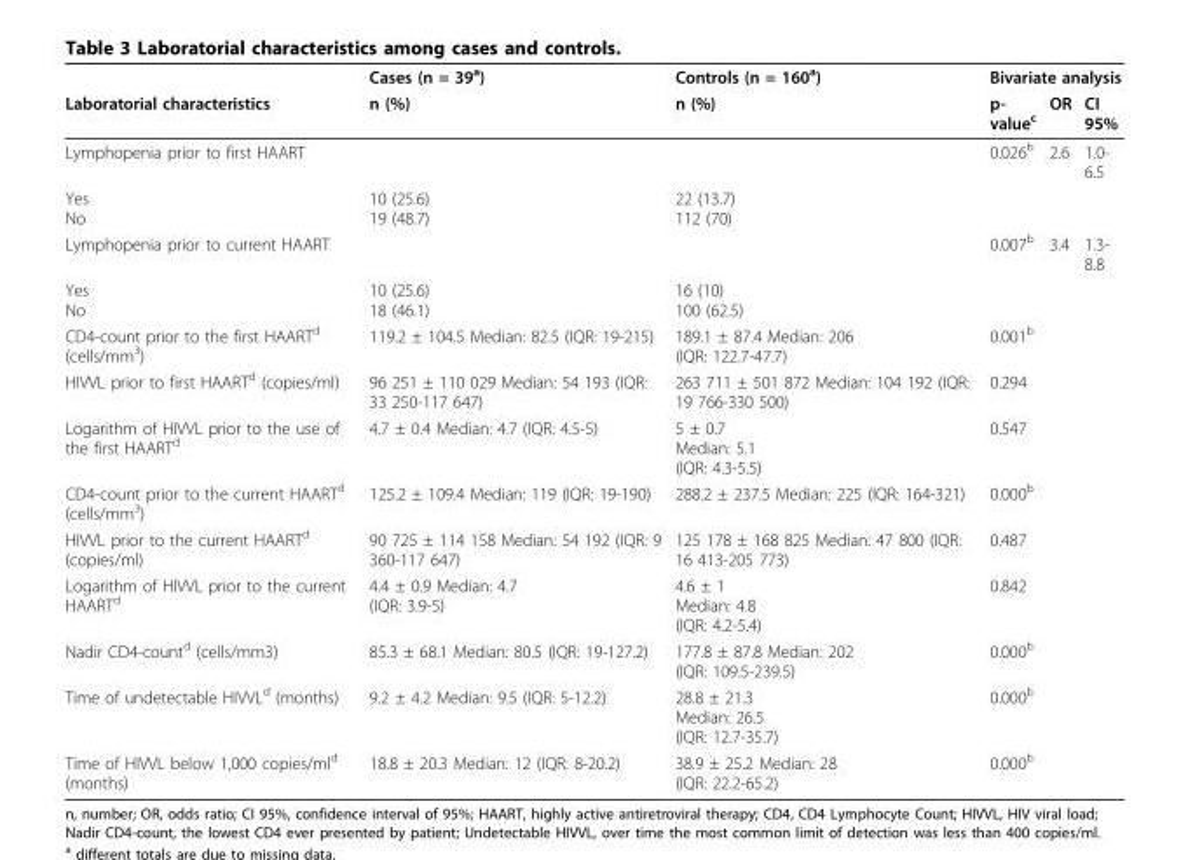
<table><thead><tr><td rowspan="2">Laboratorial characteristics</td><td rowspan="2">Cases (n = 39<sup>a</sup>) n (%)</td><td rowspan="2">Controls (n = 160<sup>a</sup>) n (%)</td><td colspan="3">Bivariate analysis</td></tr><tr><td>p- value<sup>c</sup></td><td>OR</td><td>CI 95%</td></tr></thead><tbody><tr><td>Lymphopenia prior to first HAART</td><td></td><td></td><td>0.026<sup>b</sup></td><td>2.6</td><td>1.0- 6.5</td></tr><tr><td>Yes No</td><td>10 (25.6) 19 (48.7)</td><td>22 (13.7) 112 (70)</td><td></td><td></td><td></td></tr><tr><td>Lymphopenia prior to current HAART</td><td></td><td></td><td>0.007<sup>b</sup></td><td>3.4</td><td>1.3- 8.8</td></tr><tr><td>Yes No</td><td>10 (25.6) 18 (46.1)</td><td>16 (10) 100 (62.5)</td><td></td><td></td><td></td></tr><tr><td>CD4-count prior to the first HAART<sup>d</sup> (cells/mm<sup>3</sup>)</td><td>119.2 ± 104.5 Median: 82.5 (IQR: 19-215)</td><td>189.1 ± 87.4 Median: 206 (IQR: 122.7-47.7)</td><td>0.001<sup>b</sup></td><td></td><td></td></tr><tr><td>HIVVL prior to first HAART<sup>d</sup> (copies/ml)</td><td>96 251 ± 110 029 Median: 54 193 (IQR: 33 250-117 647)</td><td>263 711 ± 501 872 Median: 104 192 (IQR: 19 766-330 500)</td><td>0.294</td><td></td><td></td></tr><tr><td>Logarithm of HIVVL prior to the use of the first HAART<sup>d</sup></td><td>4.7 ± 0.4 Median: 4.7 (IQR: 4.5-5)</td><td>5 ± 0.7 Median: 5.1 (IQR: 4.3-5.5)</td><td>0.547</td><td></td><td></td></tr><tr><td>CD4-count prior to the current HAART<sup>d</sup> (cells/mm<sup>3</sup>)</td><td>125.2 ± 109.4 Median: 119 (IQR: 19-190)</td><td>288.2 ± 237.5 Median: 225 (IQR: 164-321)</td><td>0.000<sup>b</sup></td><td></td><td></td></tr><tr><td>HIVVL prior to the current HAART<sup>d</sup> (copies/ml)</td><td>90 725 ± 114 158 Median: 54 192 (IQR: 9 360-117 647)</td><td>125 178 ± 168 825 Median: 47 800 (IQR: 16 413-205 773)</td><td>0.487</td><td></td><td></td></tr><tr><td>Logarithm of HIVVL prior to the current HAART<sup>d</sup></td><td>4.4 ± 0.9 Median: 4.7 (IQR: 3.9-5)</td><td>4.6 ± 1 Median: 4.8 (IQR: 4.2-5.4)</td><td>0.842</td><td></td><td></td></tr><tr><td>Nadir CD4-count<sup>d</sup> (cells/mm3)</td><td>85.3 ± 68.1 Median: 80.5 (IQR: 19-127.2)</td><td>177.8 ± 87.8 Median: 202 (IQR: 109.5-239.5)</td><td>0.000<sup>b</sup></td><td></td><td></td></tr><tr><td>Time of undetectable HIVVL<sup>d</sup> (months)</td><td>9.2 ± 4.2 Median: 9.5 (IQR: 5-12.2)</td><td>28.8 ± 21.3 Median: 26.5 (IQR: 12.7-35.7)</td><td>0.000<sup>b</sup></td><td></td><td></td></tr><tr><td>Time of HIVVL below 1,000 copies/ml<sup>d</sup> (months)</td><td>18.8 ± 20.3 Median: 12 (IQR: 8-20.2)</td><td>38.9 ± 25.2 Median: 28 (IQR: 22.2-65.2)</td><td>0.000<sup>b</sup></td><td></td><td></td></tr></tbody></table>